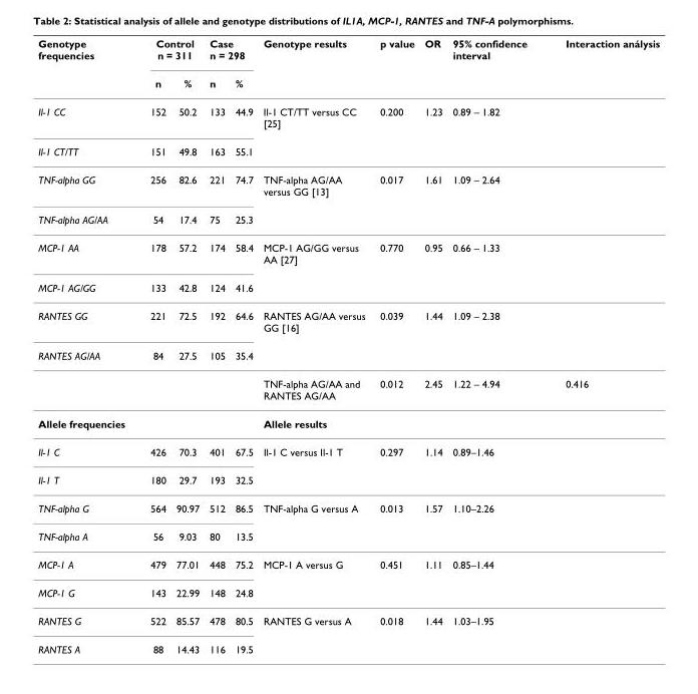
<table><thead><tr><td rowspan="2">Genotype frequencies</td><td colspan="2">Control n = 311</td><td colspan="2">Case n = 298</td><td rowspan="2">Genotype results</td><td rowspan="2">p value</td><td rowspan="2">OR</td><td rowspan="2">95% confidence interval</td><td rowspan="2">Interaction análysis</td></tr><tr><td>n</td><td>%</td><td>n</td><td>%</td></tr></thead><tbody><tr><td>Il-1 CC</td><td>152</td><td>50.2</td><td>133</td><td>44.9</td><td>Il-1 CT/TT versus CC [25]</td><td>0.200</td><td>1.23</td><td>0.89 – 1.82</td><td></td></tr><tr><td>Il-1 CT/TT</td><td>151</td><td>49.8</td><td>163</td><td>55.1</td><td></td><td></td><td></td><td></td><td></td></tr><tr><td>TNF-alpha GG</td><td>256</td><td>82.6</td><td>221</td><td>74.7</td><td>TNF-alpha AG/AA versus GG [13]</td><td>0.017</td><td>1.61</td><td>1.09 – 2.64</td><td></td></tr><tr><td>TNF-alpha AG/AA</td><td>54</td><td>17.4</td><td>75</td><td>25.3</td><td></td><td></td><td></td><td></td><td></td></tr><tr><td>MCP-1 AA</td><td>178</td><td>57.2</td><td>174</td><td>58.4</td><td>MCP-1 AG/GG versus AA [27]</td><td>0.770</td><td>0.95</td><td>0.66 – 1.33</td><td></td></tr><tr><td>MCP-1 AG/GG</td><td>133</td><td>42.8</td><td>124</td><td>41.6</td><td></td><td></td><td></td><td></td><td></td></tr><tr><td>RANTES GG</td><td>221</td><td>72.5</td><td>192</td><td>64.6</td><td>RANTES AG/AA versus GG [16]</td><td>0.039</td><td>1.44</td><td>1.09 – 2.38</td><td></td></tr><tr><td rowspan="2">RANTES AG/AA</td><td>84</td><td>27.5</td><td>105</td><td>35.4</td><td></td><td></td><td></td><td></td><td></td></tr><tr><td></td><td></td><td></td><td></td><td>TNF-alpha AG/AA and RANTES AG/AA</td><td>0.012</td><td>2.45</td><td>1.22 – 4.94</td><td>0.416</td></tr><tr><td>Allele frequencies</td><td></td><td></td><td></td><td></td><td>Allele results</td><td></td><td></td><td></td><td></td></tr><tr><td>Il-1 C</td><td>426</td><td>70.3</td><td>401</td><td>67.5</td><td>Il-1 C versus Il-1 T</td><td>0.297</td><td>1.14</td><td>0.89–1.46</td><td></td></tr><tr><td>Il-1 T</td><td>180</td><td>29.7</td><td>193</td><td>32.5</td><td></td><td></td><td></td><td></td><td></td></tr><tr><td>TNF-alpha G</td><td>564</td><td>90.97</td><td>512</td><td>86.5</td><td>TNF-alpha G versus A</td><td>0.013</td><td>1.57</td><td>1.10–2.26</td><td></td></tr><tr><td>TNF-alpha A</td><td>56</td><td>9.03</td><td>80</td><td>13.5</td><td></td><td></td><td></td><td></td><td></td></tr><tr><td>MCP-1 A</td><td>479</td><td>77.01</td><td>448</td><td>75.2</td><td>MCP-1 A versus G</td><td>0.451</td><td>1.11</td><td>0.85–1.44</td><td></td></tr><tr><td>MCP-1 G</td><td>143</td><td>22.99</td><td>148</td><td>24.8</td><td></td><td></td><td></td><td></td><td></td></tr><tr><td>RANTES G</td><td>522</td><td>85.57</td><td>478</td><td>80.5</td><td>RANTES G versus A</td><td>0.018</td><td>1.44</td><td>1.03–1.95</td><td></td></tr><tr><td>RANTES A</td><td>88</td><td>14.43</td><td>116</td><td>19.5</td><td></td><td></td><td></td><td></td><td></td></tr></tbody></table>